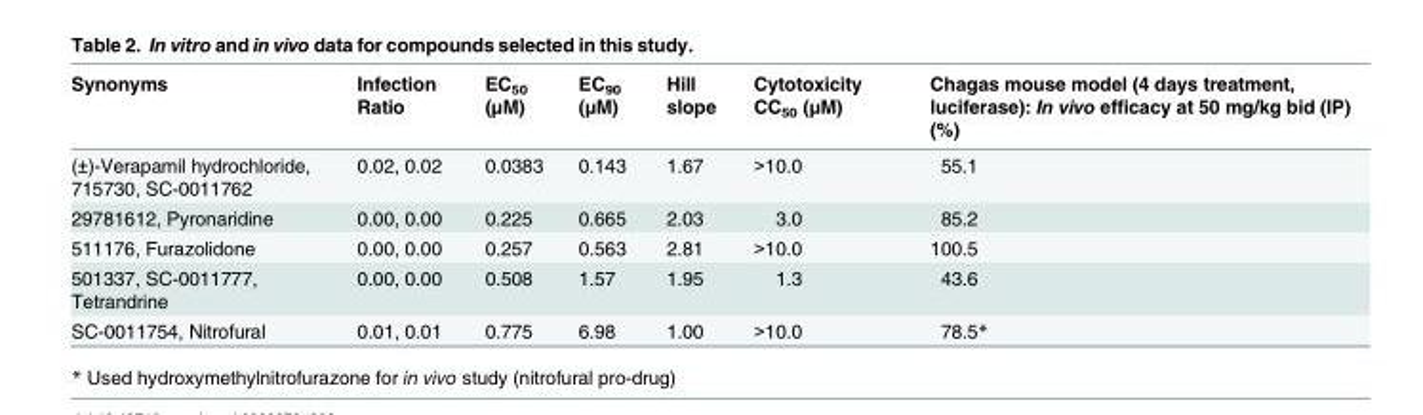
<table><thead><tr><td>Synonyms</td><td>Infection Ratio</td><td>EC<sub>50</sub> (μM)</td><td>EC<sub>90</sub> (μM)</td><td>Hill slope</td><td>Cytotoxicity CC<sub>50</sub> (μM)</td><td>Chagas mouse model (4 days treatment, luciferase): In vivo efficacy at 50 mg/kg bid (IP) (%)</td></tr></thead><tbody><tr><td>(±)-Verapamil hydrochloride, 715730, SC-0011762</td><td>0.02, 0.02</td><td>0.0383</td><td>0.143</td><td>1.67</td><td>&gt;10.0</td><td>55.1</td></tr><tr><td>29781612, Pyronaridine</td><td>0.00, 0.00</td><td>0.225</td><td>0.665</td><td>2.03</td><td>3.0</td><td>85.2</td></tr><tr><td>511176, Furazolidone</td><td>0.00, 0.00</td><td>0.257</td><td>0.563</td><td>2.81</td><td>&gt;10.0</td><td>100.5</td></tr><tr><td>501337, SC-0011777, Tetrandrine</td><td>0.00, 0.00</td><td>0.508</td><td>1.57</td><td>1.95</td><td>1.3</td><td>43.6</td></tr><tr><td>SC-0011754, Nitrofural</td><td>0.01, 0.01</td><td>0.775</td><td>6.98</td><td>1.00</td><td>&gt;10.0</td><td>78.5*</td></tr></tbody></table>